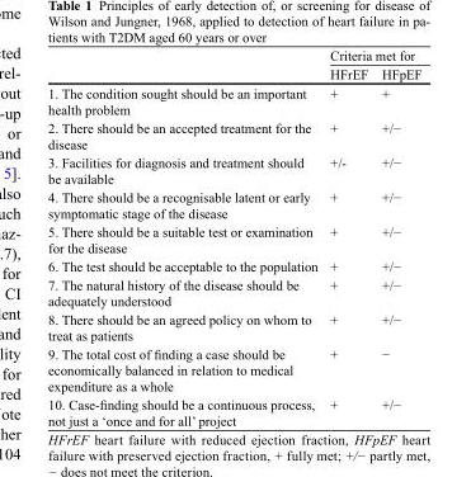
<table><thead><tr><td rowspan="2"></td><td colspan="2">Criteria met for</td></tr><tr><td>HFrEF</td><td>HFpEF</td></tr></thead><tbody><tr><td>1. The condition sought should be an important health problem</td><td>+</td><td>+</td></tr><tr><td>2. There should be an accepted treatment for the disease</td><td>+</td><td>+/−</td></tr><tr><td>3. Facilities for diagnosis and treatment should be available</td><td>+/-</td><td>+/−</td></tr><tr><td>4. There should be a recognisable latent or early symptomatic stage of the disease</td><td>+</td><td>+/−</td></tr><tr><td>5. There should be a suitable test or examination for the disease</td><td>+</td><td>+/−</td></tr><tr><td>6. The test should be acceptable to the population</td><td>+</td><td>+/−</td></tr><tr><td>7. The natural history of the disease should be adequately understood</td><td>+</td><td>+/−</td></tr><tr><td>8. There should be an agreed policy on whom to treat as patients</td><td>+</td><td>+/−</td></tr><tr><td>9. The total cost of finding a case should be economically balanced in relation to medical expenditure as a whole</td><td>+</td><td>−</td></tr><tr><td>10. Case-finding should be a continuous process, not just a ‘once and for all’ project</td><td>+</td><td>+/−</td></tr></tbody></table>